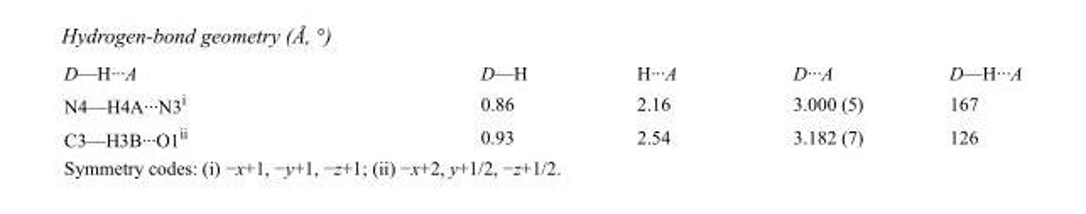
<table><tbody><tr><td>D—H···A</td><td>D—H</td><td>H···A</td><td>D···A</td><td>D—H···A</td></tr><tr><td>N4—H4A···N3<sup>i</sup></td><td>0.86</td><td>2.16</td><td>3.000 (5)</td><td>167</td></tr><tr><td>C3—H3B···O1<sup>ii</sup></td><td>0.93</td><td>2.54</td><td>3.182 (7)</td><td>126</td></tr></tbody></table>